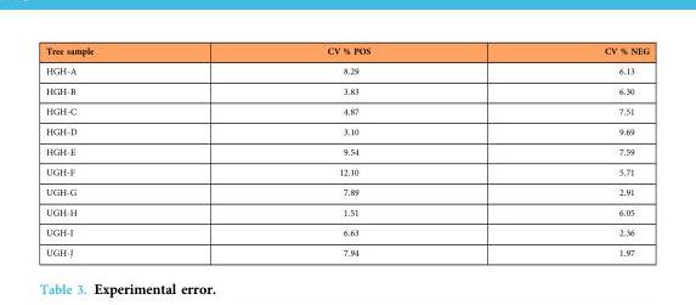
<table><thead><tr><td>Tree sample</td><td>CV % POS</td><td>CV % NEG</td></tr></thead><tbody><tr><td>HGH-A</td><td>8.29</td><td>6.13</td></tr><tr><td>HGH-B</td><td>3.83</td><td>6.30</td></tr><tr><td>HGH-C</td><td>4.87</td><td>7.51</td></tr><tr><td>HGH-D</td><td>3.10</td><td>9.69</td></tr><tr><td>HGH-E</td><td>9.54</td><td>7.59</td></tr><tr><td>UGH-F</td><td>12.10</td><td>5.71</td></tr><tr><td>UGH-G</td><td>7.89</td><td>2.91</td></tr><tr><td>UGH-H</td><td>1.51</td><td>6.05</td></tr><tr><td>UGH-I</td><td>6.63</td><td>2.36</td></tr><tr><td>UGH-J</td><td>7.94</td><td>1.97</td></tr></tbody></table>